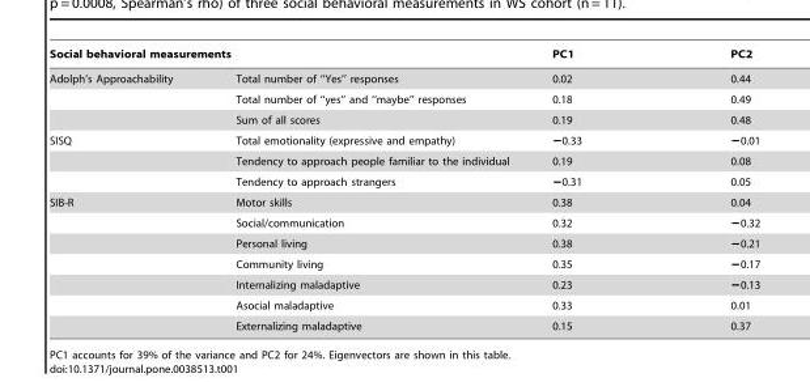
<table><thead><tr><td colspan="2">Social behavioral measurements</td><td rowspan="2">PC1 0.02</td><td rowspan="2">PC2 0.44</td></tr><tr><td>Adolph’s Approachability</td><td>Total number of ‘‘Yes’’ responses</td></tr></thead><tbody><tr><td></td><td>Total number of ‘‘yes’’ and ‘‘maybe’’ responses</td><td>0.18</td><td>0.49</td></tr><tr><td></td><td>Sum of all scores</td><td>0.19</td><td>0.48</td></tr><tr><td rowspan="3">SISQ</td><td>Total emotionality (expressive and empathy)</td><td>−0.33</td><td>−0.01</td></tr><tr><td>Tendency to approach people familiar to the individual</td><td>0.19</td><td>0.08</td></tr><tr><td>Tendency to approach strangers</td><td>−0.31</td><td>0.05</td></tr><tr><td rowspan="7">SIB-R</td><td>Motor skills</td><td>0.38</td><td>0.04</td></tr><tr><td>Social/communication</td><td>0.32</td><td>−0.32</td></tr><tr><td>Personal living</td><td>0.38</td><td>−0.21</td></tr><tr><td>Community living</td><td>0.35</td><td>−0.17</td></tr><tr><td>Internalizing maladaptive</td><td>0.23</td><td>−0.13</td></tr><tr><td>Asocial maladaptive</td><td>0.33</td><td>0.01</td></tr><tr><td>Externalizing maladaptive</td><td>0.15</td><td>0.37</td></tr></tbody></table>